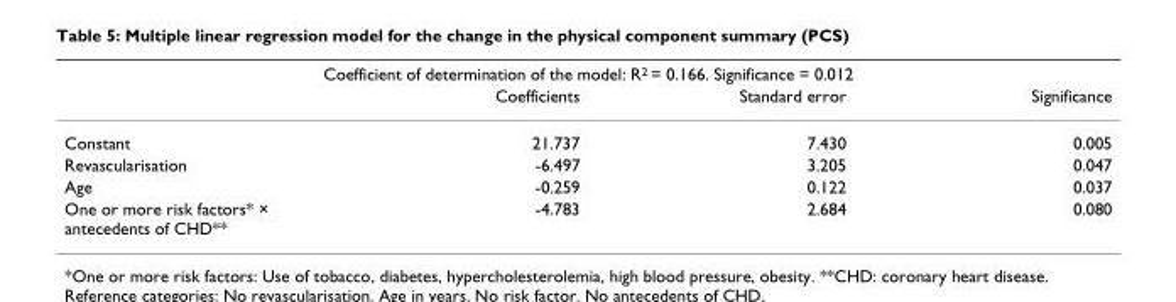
<table><thead><tr><td colspan="4">Coefficient of determination of the model: R2 = 0.166. Significance = 0.012</td></tr><tr><td></td><td>Coefficients</td><td>Standard error</td><td>Significance</td></tr></thead><tbody><tr><td>Constant</td><td>21.737</td><td>7.430</td><td>0.005</td></tr><tr><td>Revascularisation</td><td>-6.497</td><td>3.205</td><td>0.047</td></tr><tr><td>Age</td><td>-0.259</td><td>0.122</td><td>0.037</td></tr><tr><td>One or more risk factors* × antecedents of CHD**</td><td>-4.783</td><td>2.684</td><td>0.080</td></tr></tbody></table>